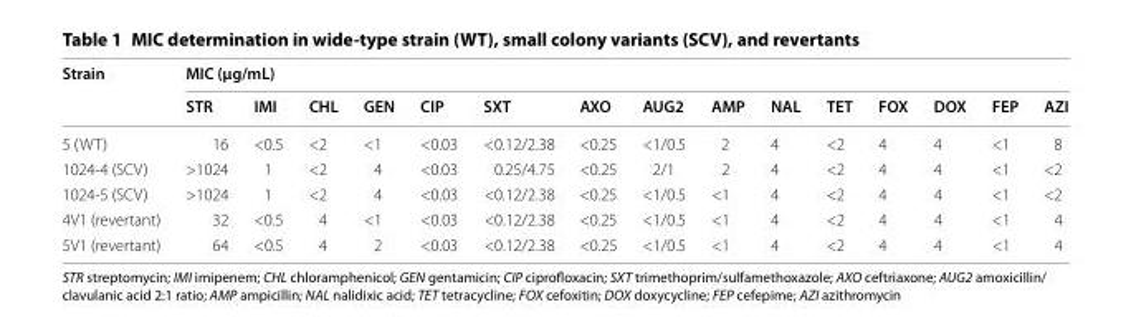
<table><thead><tr><td rowspan="2">Strain</td><td colspan="15">MIC (μg/mL)</td></tr><tr><td>STR</td><td>IMI</td><td>CHL</td><td>GEN</td><td>CIP</td><td>SXT</td><td>AXO</td><td>AUG2</td><td>AMP</td><td>NAL</td><td>TET</td><td>FOX</td><td>DOX</td><td>FEP</td><td>AZI</td></tr></thead><tbody><tr><td>5 (WT)</td><td>16</td><td>&lt;0.5</td><td>&lt;2</td><td>&lt;1</td><td>&lt;0.03</td><td>&lt;0.12/2.38</td><td>&lt;0.25</td><td>&lt;1/0.5</td><td>2</td><td>4</td><td>&lt;2</td><td>4</td><td>4</td><td>&lt;1</td><td>8</td></tr><tr><td>1024-4 (SCV)</td><td>&gt;1024</td><td>1</td><td>&lt;2</td><td>4</td><td>&lt;0.03</td><td>0.25/4.75</td><td>&lt;0.25</td><td>2/1</td><td>2</td><td>4</td><td>&lt;2</td><td>4</td><td>4</td><td>&lt;1</td><td>&lt;2</td></tr><tr><td>1024-5 (SCV)</td><td>&gt;1024</td><td>1</td><td>&lt;2</td><td>4</td><td>&lt;0.03</td><td>&lt;0.12/2.38</td><td>&lt;0.25</td><td>&lt;1/0.5</td><td>&lt;1</td><td>4</td><td>&lt;2</td><td>4</td><td>4</td><td>&lt;1</td><td>&lt;2</td></tr><tr><td>4V1 (revertant)</td><td>32</td><td>&lt;0.5</td><td>4</td><td>&lt;1</td><td>&lt;0.03</td><td>&lt;0.12/2.38</td><td>&lt;0.25</td><td>&lt;1/0.5</td><td>&lt;1</td><td>4</td><td>&lt;2</td><td>4</td><td>4</td><td>&lt;1</td><td>4</td></tr><tr><td>5V1 (revertant)</td><td>64</td><td>&lt;0.5</td><td>4</td><td>2</td><td>&lt;0.03</td><td>&lt;0.12/2.38</td><td>&lt;0.25</td><td>&lt;1/0.5</td><td>&lt;1</td><td>4</td><td>&lt;2</td><td>4</td><td>4</td><td>&lt;1</td><td>4</td></tr></tbody></table>